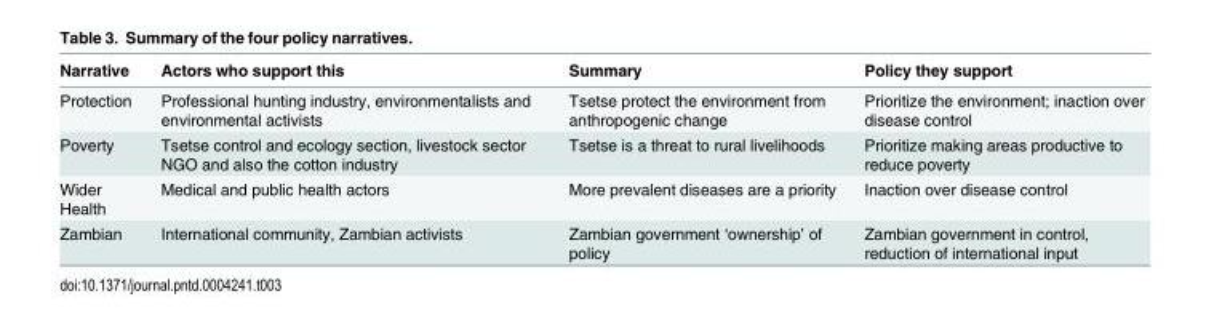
<table><thead><tr><td>Narrative</td><td>Actors who support this</td><td>Summary</td><td>Policy they support</td></tr></thead><tbody><tr><td>Protection</td><td>Professional hunting industry, environmentalists and environmental activists</td><td>Tsetse protect the environment from anthropogenic change</td><td>Prioritize the environment; inaction over disease control</td></tr><tr><td>Poverty</td><td>Tsetse control and ecology section, livestock sector NGO and also the cotton industry</td><td>Tsetse is a threat to rural livelihoods</td><td>Prioritize making areas productive to reduce poverty</td></tr><tr><td>Wider Health</td><td>Medical and public health actors</td><td>More prevalent diseases are a priority</td><td>Inaction over disease control</td></tr><tr><td>Zambian</td><td>International community, Zambian activists</td><td>Zambian government ‘ownership’ of policy</td><td>Zambian government in control, reduction of international input</td></tr></tbody></table>